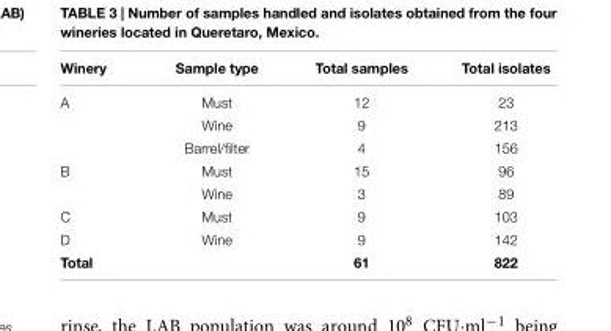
<table><thead><tr><td>Winery</td><td>Sample type</td><td>Total samples</td><td>Total isolates</td></tr></thead><tbody><tr><td rowspan="3">A</td><td>Must</td><td>12</td><td>23</td></tr><tr><td>Wine</td><td>9</td><td>213</td></tr><tr><td>Barrel/filter</td><td>4</td><td>156</td></tr><tr><td rowspan="2">B</td><td>Must</td><td>15</td><td>96</td></tr><tr><td>Wine</td><td>3</td><td>89</td></tr><tr><td>C</td><td>Must</td><td>9</td><td>103</td></tr><tr><td>D</td><td>Wine</td><td>9</td><td>142</td></tr><tr><td>Total</td><td></td><td>61</td><td>822</td></tr></tbody></table>